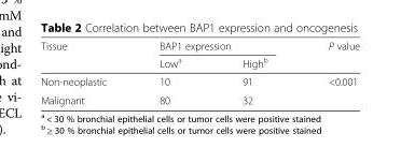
<table><thead><tr><td rowspan="2">Tissue</td><td colspan="2">BAP1 expression</td><td rowspan="2">P value</td></tr><tr><td>Low<sup>a</sup></td><td>High<sup>b</sup></td></tr></thead><tbody><tr><td>Non-neoplastic</td><td>10</td><td>91</td><td rowspan="2">&lt;0.001</td></tr><tr><td>Malignant</td><td>80</td><td>32</td></tr></tbody></table>